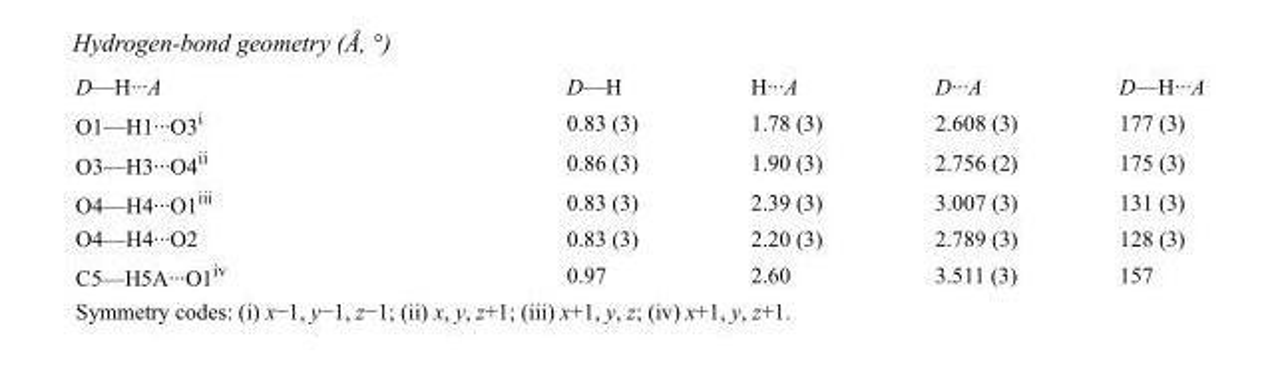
<table><tbody><tr><td>D—H···A</td><td>D—H</td><td>H···A</td><td>D···A</td><td>D—H···A</td></tr><tr><td>O1—H1···O3<sup>i</sup></td><td>0.83 (3)</td><td>1.78 (3)</td><td>2.608 (3)</td><td>177 (3)</td></tr><tr><td>O3—H3···O4<sup>ii</sup></td><td>0.86 (3)</td><td>1.90 (3)</td><td>2.756 (2)</td><td>175 (3)</td></tr><tr><td>O4—H4···O1<sup>iii</sup></td><td>0.83 (3)</td><td>2.39 (3)</td><td>3.007 (3)</td><td>131 (3)</td></tr><tr><td>O4—H4···O2</td><td>0.83 (3)</td><td>2.20 (3)</td><td>2.789 (3)</td><td>128 (3)</td></tr><tr><td>C5—H5A···O1<sup>iv</sup></td><td>0.97</td><td>2.60</td><td>3.511 (3)</td><td>157</td></tr></tbody></table>